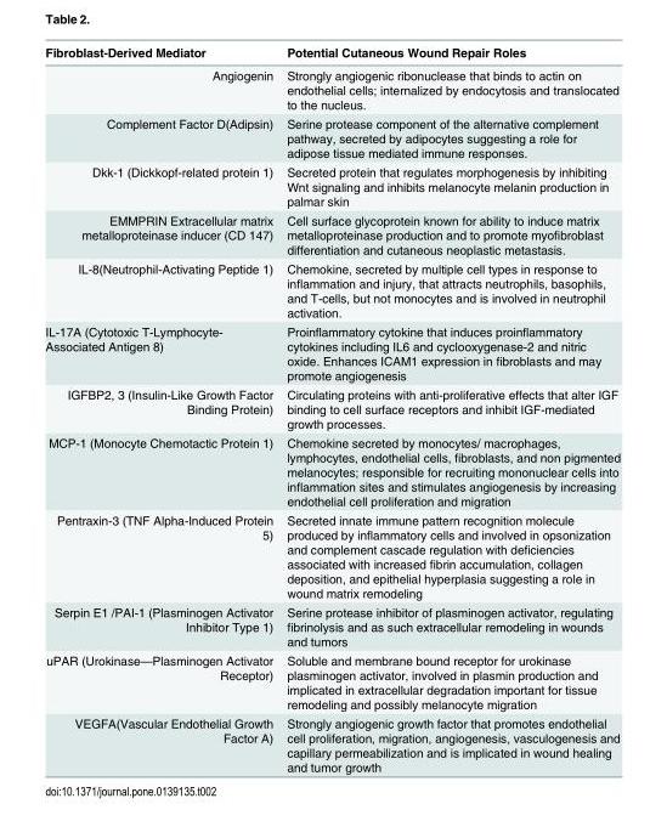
<table><thead><tr><td>Fibroblast-Derived Mediator</td><td>Potential Cutaneous Wound Repair Roles</td></tr></thead><tbody><tr><td>Angiogenin</td><td>Strongly angiogenic ribonuclease that binds to actin on endothelial cells; internalized by endocytosis and translocated to the nucleus.</td></tr><tr><td>Complement Factor D(Adipsin)</td><td>Serine protease component of the alternative complement pathway, secreted by adipocytes suggesting a role for adipose tissue mediated immune responses.</td></tr><tr><td>Dkk-1 (Dickkopf-related protein 1)</td><td>Secreted protein that regulates morphogenesis by inhibiting Wnt signaling and inhibits melanocyte melanin production in palmar skin</td></tr><tr><td>EMMPRIN Extracellular matrix metalloproteinase inducer (CD 147)</td><td>Cell surface glycoprotein known for ability to induce matrix metalloproteinase production and to promote myofibroblast differentiation and cutaneous neoplastic metastasis.</td></tr><tr><td>IL-8(Neutrophil-Activating Peptide 1)</td><td>Chemokine, secreted by multiple cell types in response to inflammation and injury, that attracts neutrophils, basophils, and T-cells, but not monocytes and is involved in neutrophil activation.</td></tr><tr><td>IL-17A (Cytotoxic T-Lymphocyte- Associated Antigen 8)</td><td>Proinflammatory cytokine that induces proinflammatory cytokines including IL6 and cyclooxygenase-2 and nitric oxide. Enhances ICAM1 expression in fibroblasts and may promote angiogenesis</td></tr><tr><td>IGFBP2, 3 (Insulin-Like Growth Factor Binding Protein)</td><td>Circulating proteins with anti-proliferative effects that alter IGF binding to cell surface receptors and inhibit IGF-mediated growth processes.</td></tr><tr><td>MCP-1 (Monocyte Chemotactic Protein 1)</td><td>Chemokine secreted by monocytes/ macrophages, lymphocytes, endothelial cells, fibroblasts, and non pigmented melanocytes; responsible for recruiting mononuclear cells into inflammation sites and stimulates angiogenesis by increasing endothelial cell proliferation and migration</td></tr><tr><td>Pentraxin-3 (TNF Alpha-Induced Protein 5)</td><td>Secreted innate immune pattern recognition molecule produced by inflammatory cells and involved in opsonization and complement cascade regulation with deficiencies associated with increased fibrin accumulation, collagen deposition, and epithelial hyperplasia suggesting a role in wound matrix remodeling</td></tr><tr><td>Serpin E1 /PAI-1 (Plasminogen Activator Inhibitor Type 1)</td><td>Serine protease inhibitor of plasminogen activator, regulating fibrinolysis and as such extracellular remodeling in wounds and tumors</td></tr><tr><td>uPAR (Urokinase—Plasminogen Activator Receptor)</td><td>Soluble and membrane bound receptor for urokinase plasminogen activator, involved in plasmin production and implicated in extracellular degradation important for tissue remodeling and possibly melanocyte migration</td></tr><tr><td>VEGFA(Vascular Endothelial Growth Factor A)</td><td>Strongly angiogenic growth factor that promotes endothelial cell proliferation, migration, angiogenesis, vasculogenesis and capillary permeabilization and is implicated in wound healing and tumor growth</td></tr></tbody></table>